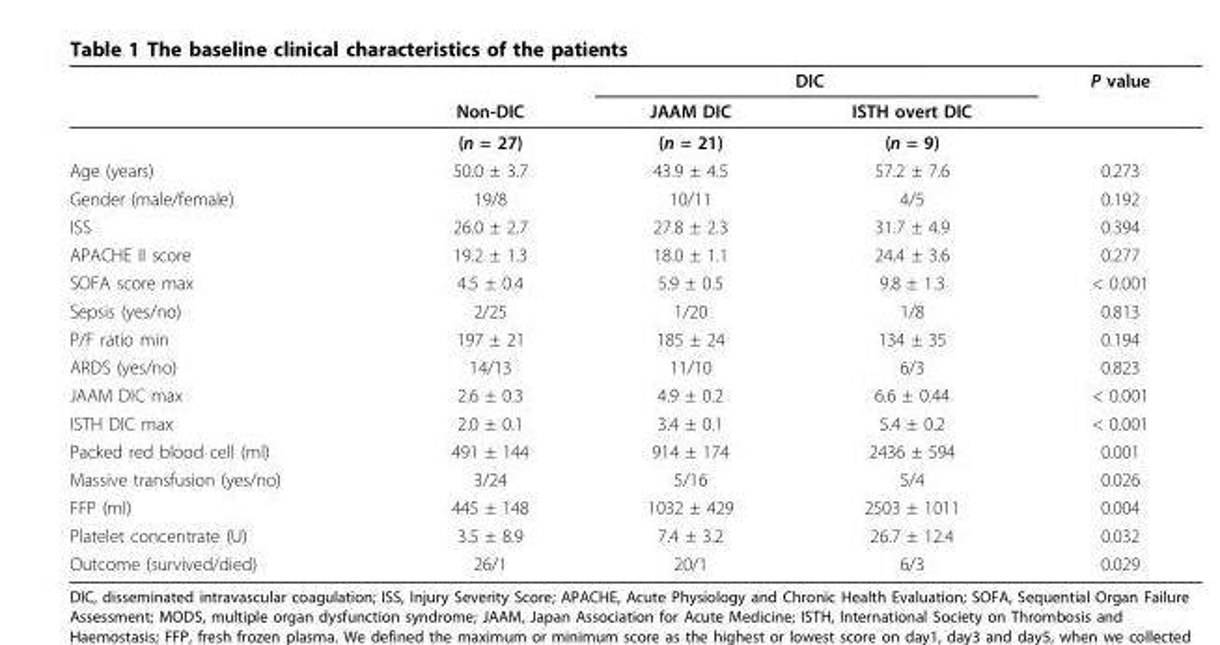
<table><thead><tr><td rowspan="2"></td><td rowspan="2">Non-DIC</td><td colspan="2">DIC</td><td rowspan="2">P value</td></tr><tr><td>JAAM DIC</td><td>ISTH overt DIC</td></tr></thead><tbody><tr><td></td><td>(n = 27)</td><td>(n = 21)</td><td>(n = 9)</td><td></td></tr><tr><td>Age (years)</td><td>50.0 ± 3.7</td><td>43.9 ± 4.5</td><td>57.2 ± 7.6</td><td>0.273</td></tr><tr><td>Gender (male/female)</td><td>19/8</td><td>10/11</td><td>4/5</td><td>0.192</td></tr><tr><td>ISS</td><td>26.0 ± 2.7</td><td>27.8 ± 2.3</td><td>31.7 ± 4.9</td><td>0.394</td></tr><tr><td>APACHE II score</td><td>19.2 ± 1.3</td><td>18.0 ± 1.1</td><td>24.4 ± 3.6</td><td>0.277</td></tr><tr><td>SOFA score max</td><td>4.5 ± 0.4</td><td>5.9 ± 0.5</td><td>9.8 ± 1.3</td><td>&lt; 0.001</td></tr><tr><td>Sepsis (yes/no)</td><td>2/25</td><td>1/20</td><td>1/8</td><td>0.813</td></tr><tr><td>P/F ratio min</td><td>197 ± 21</td><td>185 ± 24</td><td>134 ± 35</td><td>0.194</td></tr><tr><td>ARDS (yes/no)</td><td>14/13</td><td>11/10</td><td>6/3</td><td>0.823</td></tr><tr><td>JAAM DIC max</td><td>2.6 ± 0.3</td><td>4.9 ± 0.2</td><td>6.6 ± 0.44</td><td>&lt; 0.001</td></tr><tr><td>ISTH DIC max</td><td>2.0 ± 0.1</td><td>3.4 ± 0.1</td><td>5.4 ± 0.2</td><td>&lt; 0.001</td></tr><tr><td>Packed red blood cell (ml)</td><td>491 ± 144</td><td>914 ± 174</td><td>2436 ± 594</td><td>0.001</td></tr><tr><td>Massive transfusion (yes/no)</td><td>3/24</td><td>5/16</td><td>5/4</td><td>0.026</td></tr><tr><td>FFP (ml)</td><td>445 ± 148</td><td>1032 ± 429</td><td>2503 ± 1011</td><td>0.004</td></tr><tr><td>Platelet concentrate (U)</td><td>3.5 ± 8.9</td><td>7.4 ± 3.2</td><td>26.7 ± 12.4</td><td>0.032</td></tr><tr><td>Outcome (survived/died)</td><td>26/1</td><td>20/1</td><td>6/3</td><td>0.029</td></tr></tbody></table>